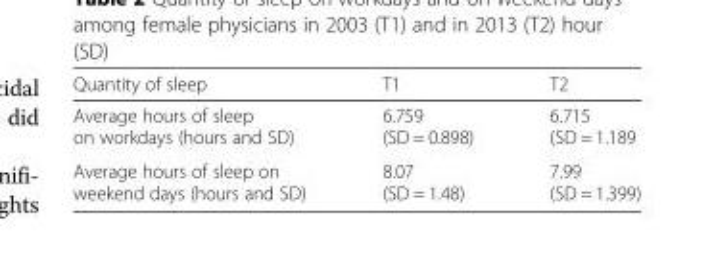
<table><thead><tr><td>Quantity of sleep</td><td>T1</td><td>T2</td></tr></thead><tbody><tr><td>Average hours of sleep on workdays (hours and SD)</td><td>6.759 (SD = 0.898)</td><td>6.715 (SD = 1.189</td></tr><tr><td>Average hours of sleep on weekend days (hours and SD)</td><td>8.07 (SD = 1.48)</td><td>7.99 (SD = 1.399)</td></tr></tbody></table>